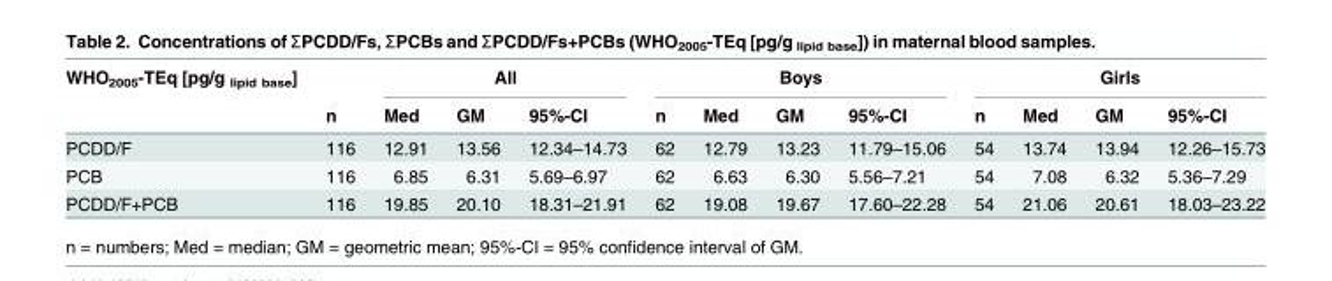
<table><thead><tr><td rowspan="2">WHO<sub>2005</sub>-TEq [pg/g <sub>lipid base</sub>]</td><td rowspan="2">n</td><td colspan="3">All</td><td colspan="4">Boys</td><td colspan="4">Girls</td></tr><tr><td>Med</td><td>GM</td><td>95%-CI</td><td>n</td><td>Med</td><td>GM</td><td>95%-CI</td><td>n</td><td>Med</td><td>GM</td><td>95%-CI</td></tr></thead><tbody><tr><td>PCDD/F</td><td>116</td><td>12.91</td><td>13.56</td><td>12.34–14.73</td><td>62</td><td>12.79</td><td>13.23</td><td>11.79–15.06</td><td>54</td><td>13.74</td><td>13.94</td><td>12.26–15.73</td></tr><tr><td>PCB</td><td>116</td><td>6.85</td><td>6.31</td><td>5.69–6.97</td><td>62</td><td>6.63</td><td>6.30</td><td>5.56–7.21</td><td>54</td><td>7.08</td><td>6.32</td><td>5.36–7.29</td></tr><tr><td>PCDD/F+PCB</td><td>116</td><td>19.85</td><td>20.10</td><td>18.31–21.91</td><td>62</td><td>19.08</td><td>19.67</td><td>17.60–22.28</td><td>54</td><td>21.06</td><td>20.61</td><td>18.03–23.22</td></tr></tbody></table>